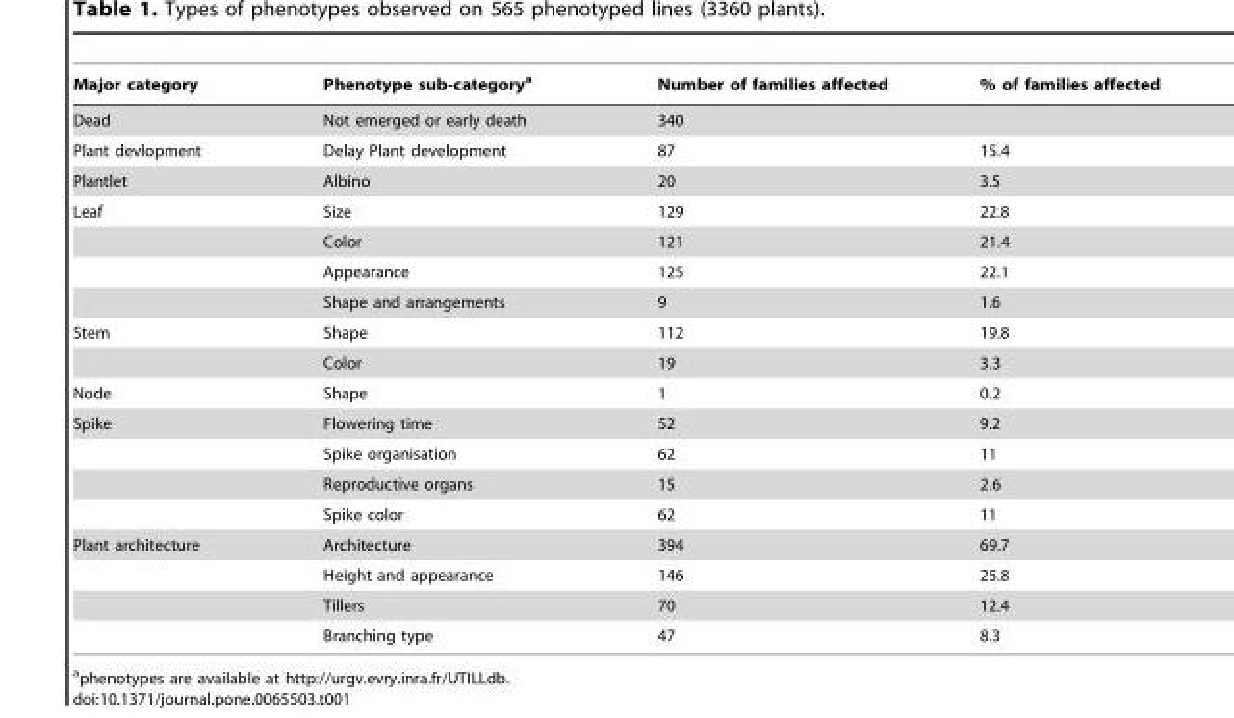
<table><thead><tr><td>Major category</td><td>Phenotype sub-category<sup>a</sup></td><td>Number of families affected</td><td>% of families affected</td></tr></thead><tbody><tr><td>Dead</td><td>Not emerged or early death</td><td>340</td><td></td></tr><tr><td>Plant devlopment</td><td>Delay Plant development</td><td>87</td><td>15.4</td></tr><tr><td>Plantlet</td><td>Albino</td><td>20</td><td>3.5</td></tr><tr><td rowspan="4">Leaf</td><td>Size</td><td>129</td><td>22.8</td></tr><tr><td>Color</td><td>121</td><td>21.4</td></tr><tr><td>Appearance</td><td>125</td><td>22.1</td></tr><tr><td>Shape and arrangements</td><td>9</td><td>1.6</td></tr><tr><td rowspan="2">Stem</td><td>Shape</td><td>112</td><td>19.8</td></tr><tr><td>Color</td><td>19</td><td>3.3</td></tr><tr><td>Node</td><td>Shape</td><td>1</td><td>0.2</td></tr><tr><td rowspan="4">Spike</td><td>Flowering time</td><td>52</td><td>9.2</td></tr><tr><td>Spike organisation</td><td>62</td><td>11</td></tr><tr><td>Reproductive organs</td><td>15</td><td>2.6</td></tr><tr><td>Spike color</td><td>62</td><td>11</td></tr><tr><td rowspan="4">Plant architecture</td><td>Architecture</td><td>394</td><td>69.7</td></tr><tr><td>Height and appearance</td><td>146</td><td>25.8</td></tr><tr><td>Tillers</td><td>70</td><td>12.4</td></tr><tr><td>Branching type</td><td>47</td><td>8.3</td></tr></tbody></table>